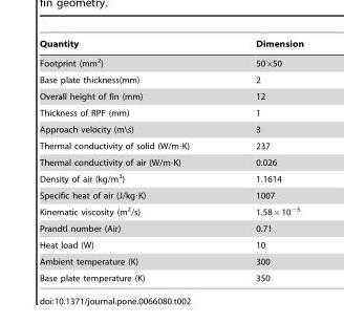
<table><thead><tr><td>Quantity</td><td>Dimension</td></tr></thead><tbody><tr><td>Footprint (mm<sup>2</sup>)</td><td>50×50</td></tr><tr><td>Base plate thickness(mm)</td><td>2</td></tr><tr><td>Overall height of fin (mm)</td><td>12</td></tr><tr><td>Thickness of RPF (mm)</td><td>1</td></tr><tr><td>Approach velocity (m\s)</td><td>3</td></tr><tr><td>Thermal conductivity of solid (W/m·K)</td><td>237</td></tr><tr><td>Thermal conductivity of air (W/m·K)</td><td>0.026</td></tr><tr><td>Density of air (kg/m<sup>3</sup>)</td><td>1.1614</td></tr><tr><td>Specific heat of air (J/kg·K)</td><td>1007</td></tr><tr><td>Kinematic viscosity (m<sup>2</sup>/s)</td><td>1.58|1025</td></tr><tr><td>Prandtl number (Air)</td><td>0.71</td></tr><tr><td>Heat load (W)</td><td>10</td></tr><tr><td>Ambient temperature (K)</td><td>300</td></tr><tr><td>Base plate temperature (K)</td><td>350</td></tr></tbody></table>